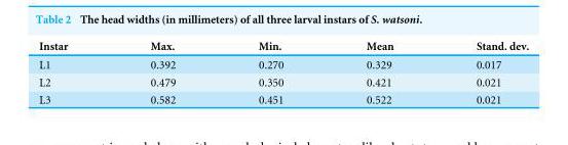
<table><thead><tr><td>Instar</td><td>Max.</td><td>Min.</td><td>Mean</td><td>Stand. dev.</td></tr></thead><tbody><tr><td>L1</td><td>0.392</td><td>0.270</td><td>0.329</td><td>0.017</td></tr><tr><td>L2</td><td>0.479</td><td>0.350</td><td>0.421</td><td>0.021</td></tr><tr><td>L3</td><td>0.582</td><td>0.451</td><td>0.522</td><td>0.021</td></tr></tbody></table>